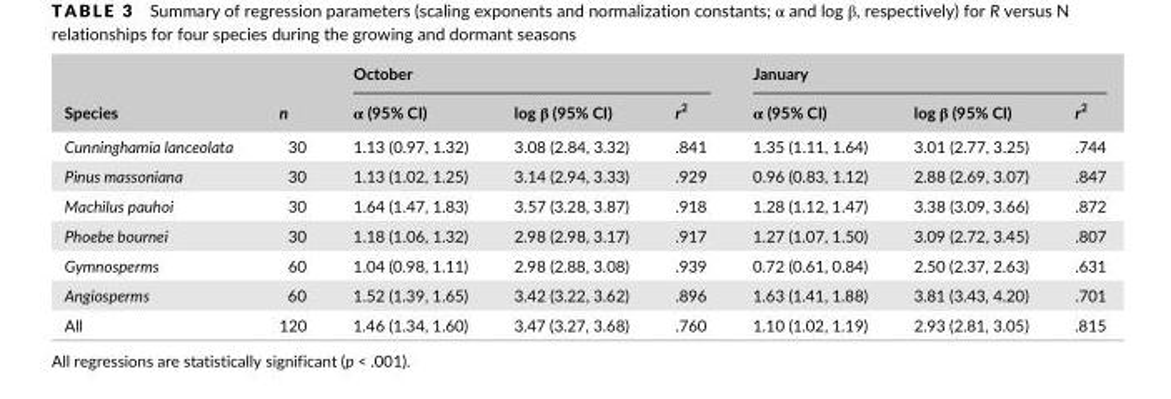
<table><thead><tr><td rowspan="2">Species</td><td rowspan="2">n</td><td colspan="3">October</td><td colspan="3">January</td></tr><tr><td>α (95% CI)</td><td>log β (95% CI)</td><td>r<sup>2</sup></td><td>α (95% CI)</td><td>log β (95% CI)</td><td>r<sup>2</sup></td></tr></thead><tbody><tr><td>Cunninghamia lanceolata</td><td>30</td><td>1.13 (0.97, 1.32)</td><td>3.08 (2.84, 3.32)</td><td>.841</td><td>1.35 (1.11, 1.64)</td><td>3.01 (2.77, 3.25)</td><td>.744</td></tr><tr><td>Pinus massoniana</td><td>30</td><td>1.13 (1.02, 1.25)</td><td>3.14 (2.94, 3.33)</td><td>.929</td><td>0.96 (0.83, 1.12)</td><td>2.88 (2.69, 3.07)</td><td>.847</td></tr><tr><td>Machilus pauhoi</td><td>30</td><td>1.64 (1.47, 1.83)</td><td>3.57 (3.28, 3.87)</td><td>.918</td><td>1.28 (1.12, 1.47)</td><td>3.38 (3.09, 3.66)</td><td>.872</td></tr><tr><td>Phoebe bournei</td><td>30</td><td>1.18 (1.06, 1.32)</td><td>2.98 (2.98, 3.17)</td><td>.917</td><td>1.27 (1.07, 1.50)</td><td>3.09 (2.72, 3.45)</td><td>.807</td></tr><tr><td>Gymnosperms</td><td>60</td><td>1.04 (0.98, 1.11)</td><td>2.98 (2.88, 3.08)</td><td>.939</td><td>0.72 (0.61, 0.84)</td><td>2.50 (2.37, 2.63)</td><td>.631</td></tr><tr><td>Angiosperms</td><td>60</td><td>1.52 (1.39, 1.65)</td><td>3.42 (3.22, 3.62)</td><td>.896</td><td>1.63 (1.41, 1.88)</td><td>3.81 (3.43, 4.20)</td><td>.701</td></tr><tr><td>All</td><td>120</td><td>1.46 (1.34, 1.60)</td><td>3.47 (3.27, 3.68)</td><td>.760</td><td>1.10 (1.02, 1.19)</td><td>2.93 (2.81, 3.05)</td><td>.815</td></tr></tbody></table>